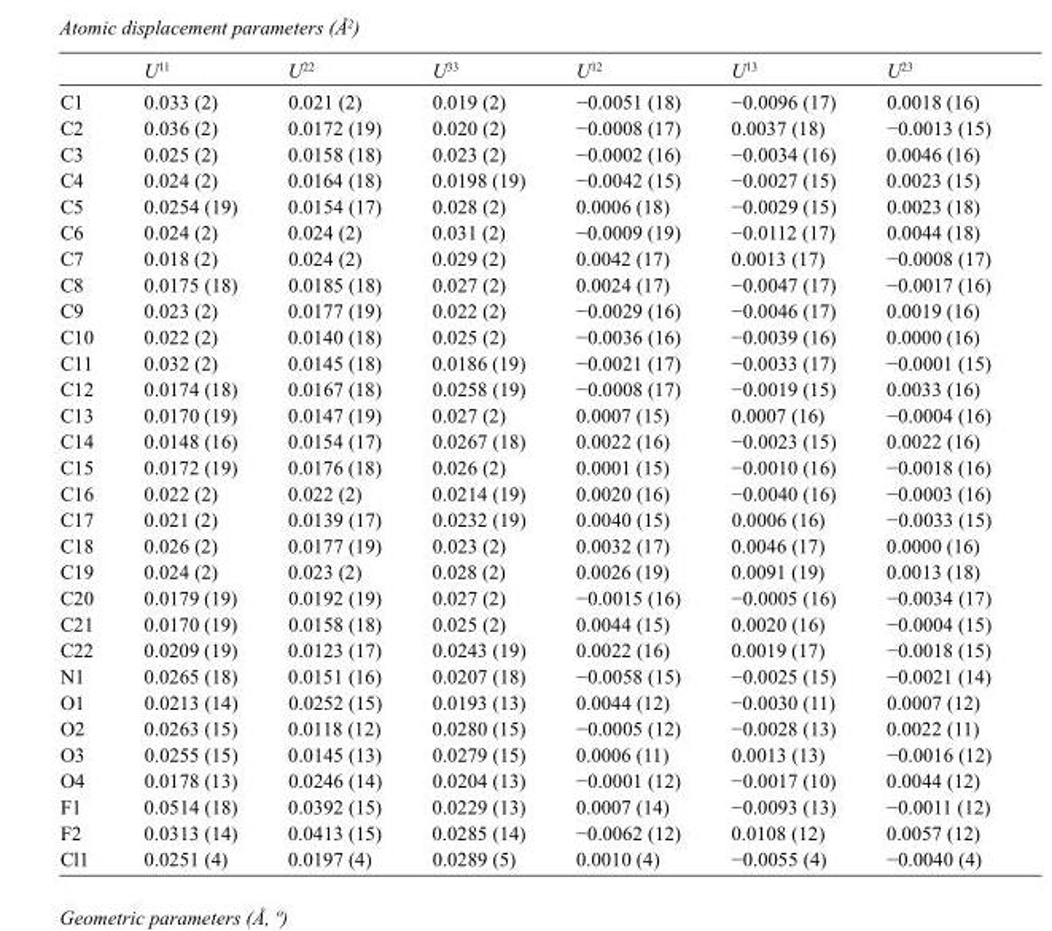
<table><thead><tr><td></td><td>U<sup>11</sup></td><td>U<sup>22</sup></td><td>U<sup>33</sup></td><td>U<sup>12</sup></td><td>U<sup>13</sup></td><td>U<sup>23</sup></td></tr></thead><tbody><tr><td>C1</td><td>0.033 (2)</td><td>0.021 (2)</td><td>0.019 (2)</td><td>−0.0051 (18)</td><td>−0.0096 (17)</td><td>0.0018 (16)</td></tr><tr><td>C2</td><td>0.036 (2)</td><td>0.0172 (19)</td><td>0.020 (2)</td><td>−0.0008 (17)</td><td>0.0037 (18)</td><td>−0.0013 (15)</td></tr><tr><td>C3</td><td>0.025 (2)</td><td>0.0158 (18)</td><td>0.023 (2)</td><td>−0.0002 (16)</td><td>−0.0034 (16)</td><td>0.0046 (16)</td></tr><tr><td>C4</td><td>0.024 (2)</td><td>0.0164 (18)</td><td>0.0198 (19)</td><td>−0.0042 (15)</td><td>−0.0027 (15)</td><td>0.0023 (15)</td></tr><tr><td>C5</td><td>0.0254 (19)</td><td>0.0154 (17)</td><td>0.028 (2)</td><td>0.0006 (18)</td><td>−0.0029 (15)</td><td>0.0023 (18)</td></tr><tr><td>C6</td><td>0.024 (2)</td><td>0.024 (2)</td><td>0.031 (2)</td><td>−0.0009 (19)</td><td>−0.0112 (17)</td><td>0.0044 (18)</td></tr><tr><td>C7</td><td>0.018 (2)</td><td>0.024 (2)</td><td>0.029 (2)</td><td>0.0042 (17)</td><td>0.0013 (17)</td><td>−0.0008 (17)</td></tr><tr><td>C8</td><td>0.0175 (18)</td><td>0.0185 (18)</td><td>0.027 (2)</td><td>0.0024 (17)</td><td>−0.0047 (17)</td><td>−0.0017 (16)</td></tr><tr><td>C9</td><td>0.023 (2)</td><td>0.0177 (19)</td><td>0.022 (2)</td><td>−0.0029 (16)</td><td>−0.0046 (17)</td><td>0.0019 (16)</td></tr><tr><td>C10</td><td>0.022 (2)</td><td>0.0140 (18)</td><td>0.025 (2)</td><td>−0.0036 (16)</td><td>−0.0039 (16)</td><td>0.0000 (16)</td></tr><tr><td>C11</td><td>0.032 (2)</td><td>0.0145 (18)</td><td>0.0186 (19)</td><td>−0.0021 (17)</td><td>−0.0033 (17)</td><td>−0.0001 (15)</td></tr><tr><td>C12</td><td>0.0174 (18)</td><td>0.0167 (18)</td><td>0.0258 (19)</td><td>−0.0008 (17)</td><td>−0.0019 (15)</td><td>0.0033 (16)</td></tr><tr><td>C13</td><td>0.0170 (19)</td><td>0.0147 (19)</td><td>0.027 (2)</td><td>0.0007 (15)</td><td>0.0007 (16)</td><td>−0.0004 (16)</td></tr><tr><td>C14</td><td>0.0148 (16)</td><td>0.0154 (17)</td><td>0.0267 (18)</td><td>0.0022 (16)</td><td>−0.0023 (15)</td><td>0.0022 (16)</td></tr><tr><td>C15</td><td>0.0172 (19)</td><td>0.0176 (18)</td><td>0.026 (2)</td><td>0.0001 (15)</td><td>−0.0010 (16)</td><td>−0.0018 (16)</td></tr><tr><td>C16</td><td>0.022 (2)</td><td>0.022 (2)</td><td>0.0214 (19)</td><td>0.0020 (16)</td><td>−0.0040 (16)</td><td>−0.0003 (16)</td></tr><tr><td>C17</td><td>0.021 (2)</td><td>0.0139 (17)</td><td>0.0232 (19)</td><td>0.0040 (15)</td><td>0.0006 (16)</td><td>−0.0033 (15)</td></tr><tr><td>C18</td><td>0.026 (2)</td><td>0.0177 (19)</td><td>0.023 (2)</td><td>0.0032 (17)</td><td>0.0046 (17)</td><td>0.0000 (16)</td></tr><tr><td>C19</td><td>0.024 (2)</td><td>0.023 (2)</td><td>0.028 (2)</td><td>0.0026 (19)</td><td>0.0091 (19)</td><td>0.0013 (18)</td></tr><tr><td>C20</td><td>0.0179 (19)</td><td>0.0192 (19)</td><td>0.027 (2)</td><td>−0.0015 (16)</td><td>−0.0005 (16)</td><td>−0.0034 (17)</td></tr><tr><td>C21</td><td>0.0170 (19)</td><td>0.0158 (18)</td><td>0.025 (2)</td><td>0.0044 (15)</td><td>0.0020 (16)</td><td>−0.0004 (15)</td></tr><tr><td>C22</td><td>0.0209 (19)</td><td>0.0123 (17)</td><td>0.0243 (19)</td><td>0.0022 (16)</td><td>0.0019 (17)</td><td>−0.0018 (15)</td></tr><tr><td>N1</td><td>0.0265 (18)</td><td>0.0151 (16)</td><td>0.0207 (18)</td><td>−0.0058 (15)</td><td>−0.0025 (15)</td><td>−0.0021 (14)</td></tr><tr><td>O1</td><td>0.0213 (14)</td><td>0.0252 (15)</td><td>0.0193 (13)</td><td>0.0044 (12)</td><td>−0.0030 (11)</td><td>0.0007 (12)</td></tr><tr><td>O2</td><td>0.0263 (15)</td><td>0.0118 (12)</td><td>0.0280 (15)</td><td>−0.0005 (12)</td><td>−0.0028 (13)</td><td>0.0022 (11)</td></tr><tr><td>O3</td><td>0.0255 (15)</td><td>0.0145 (13)</td><td>0.0279 (15)</td><td>0.0006 (11)</td><td>0.0013 (13)</td><td>−0.0016 (12)</td></tr><tr><td>O4</td><td>0.0178 (13)</td><td>0.0246 (14)</td><td>0.0204 (13)</td><td>−0.0001 (12)</td><td>−0.0017 (10)</td><td>0.0044 (12)</td></tr><tr><td>F1</td><td>0.0514 (18)</td><td>0.0392 (15)</td><td>0.0229 (13)</td><td>0.0007 (14)</td><td>−0.0093 (13)</td><td>−0.0011 (12)</td></tr><tr><td>F2</td><td>0.0313 (14)</td><td>0.0413 (15)</td><td>0.0285 (14)</td><td>−0.0062 (12)</td><td>0.0108 (12)</td><td>0.0057 (12)</td></tr><tr><td>Cl1</td><td>0.0251 (4)</td><td>0.0197 (4)</td><td>0.0289 (5)</td><td>0.0010 (4)</td><td>−0.0055 (4)</td><td>−0.0040 (4)</td></tr></tbody></table>